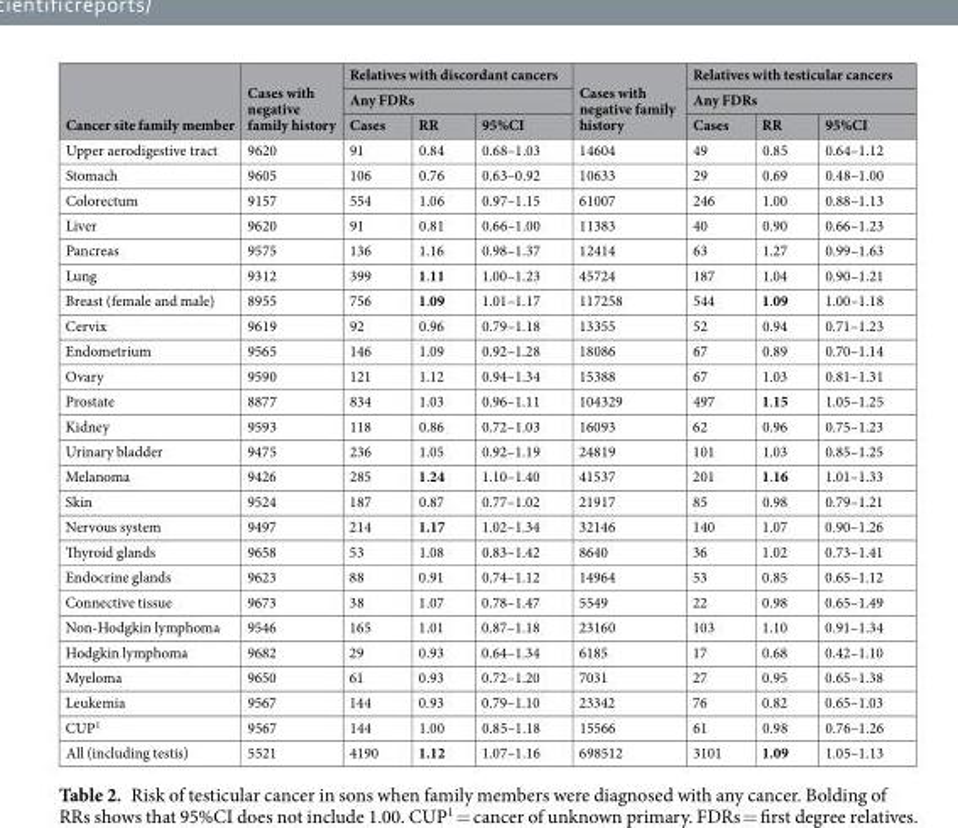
<table><thead><tr><td rowspan="3">Cancer site family member</td><td rowspan="3">Cases with negative family history</td><td rowspan="2" colspan="3">Relatives with discordant cancers Any FDRs</td><td rowspan="3">Cases with negative family history</td><td rowspan="2" colspan="3">Relatives with testicular cancers Any FDRs</td></tr><tr></tr><tr><td>Cases</td><td>RR</td><td>95%CI</td><td>Cases</td><td>RR</td><td>95%CI</td></tr></thead><tbody><tr><td>Upper aerodigestive tract</td><td>9620</td><td>91</td><td>0.84</td><td>0.68–1.03</td><td>14604</td><td>49</td><td>0.85</td><td>0.64–1.12</td></tr><tr><td>Stomach</td><td>9605</td><td>106</td><td>0.76</td><td>0.63–0.92</td><td>10633</td><td>29</td><td>0.69</td><td>0.48–1.00</td></tr><tr><td>Colorectum</td><td>9157</td><td>554</td><td>1.06</td><td>0.97–1.15</td><td>61007</td><td>246</td><td>1.00</td><td>0.88–1.13</td></tr><tr><td>Liver</td><td>9620</td><td>91</td><td>0.81</td><td>0.66–1.00</td><td>11383</td><td>40</td><td>0.90</td><td>0.66–1.23</td></tr><tr><td>Pancreas</td><td>9575</td><td>136</td><td>1.16</td><td>0.98–1.37</td><td>12414</td><td>63</td><td>1.27</td><td>0.99–1.63</td></tr><tr><td>Lung</td><td>9312</td><td>399</td><td>1.11</td><td>1.00–1.23</td><td>45724</td><td>187</td><td>1.04</td><td>0.90–1.21</td></tr><tr><td>Breast (female and male)</td><td>8955</td><td>756</td><td>1.09</td><td>1.01–1.17</td><td>117258</td><td>544</td><td>1.09</td><td>1.00–1.18</td></tr><tr><td>Cervix</td><td>9619</td><td>92</td><td>0.96</td><td>0.79–1.18</td><td>13355</td><td>52</td><td>0.94</td><td>0.71–1.23</td></tr><tr><td>Endometrium</td><td>9565</td><td>146</td><td>1.09</td><td>0.92–1.28</td><td>18086</td><td>67</td><td>0.89</td><td>0.70–1.14</td></tr><tr><td>Ovary</td><td>9590</td><td>121</td><td>1.12</td><td>0.94–1.34</td><td>15388</td><td>67</td><td>1.03</td><td>0.81–1.31</td></tr><tr><td>Prostate</td><td>8877</td><td>834</td><td>1.03</td><td>0.96–1.11</td><td>104329</td><td>497</td><td>1.15</td><td>1.05–1.25</td></tr><tr><td>Kidney</td><td>9593</td><td>118</td><td>0.86</td><td>0.72–1.03</td><td>16093</td><td>62</td><td>0.96</td><td>0.75–1.23</td></tr><tr><td>Urinary bladder</td><td>9475</td><td>236</td><td>1.05</td><td>0.92–1.19</td><td>24819</td><td>101</td><td>1.03</td><td>0.85–1.25</td></tr><tr><td>Melanoma</td><td>9426</td><td>285</td><td>1.24</td><td>1.10–1.40</td><td>41537</td><td>201</td><td>1.16</td><td>1.01–1.33</td></tr><tr><td>Skin</td><td>9524</td><td>187</td><td>0.87</td><td>0.77–1.02</td><td>21917</td><td>85</td><td>0.98</td><td>0.79–1.21</td></tr><tr><td>Nervous system</td><td>9497</td><td>214</td><td>1.17</td><td>1.02–1.34</td><td>32146</td><td>140</td><td>1.07</td><td>0.90–1.26</td></tr><tr><td>Thyroid glands</td><td>9658</td><td>53</td><td>1.08</td><td>0.83–1.42</td><td>8640</td><td>36</td><td>1.02</td><td>0.73–1.41</td></tr><tr><td>Endocrine glands</td><td>9623</td><td>88</td><td>0.91</td><td>0.74–1.12</td><td>14964</td><td>53</td><td>0.85</td><td>0.65–1.12</td></tr><tr><td>Connective tissue</td><td>9673</td><td>38</td><td>1.07</td><td>0.78–1.47</td><td>5549</td><td>22</td><td>0.98</td><td>0.65–1.49</td></tr><tr><td>Non-Hodgkin lymphoma</td><td>9546</td><td>165</td><td>1.01</td><td>0.87–1.18</td><td>23160</td><td>103</td><td>1.10</td><td>0.91–1.34</td></tr><tr><td>Hodgkin lymphoma</td><td>9682</td><td>29</td><td>0.93</td><td>0.64–1.34</td><td>6185</td><td>17</td><td>0.68</td><td>0.42–1.10</td></tr><tr><td>Myeloma</td><td>9650</td><td>61</td><td>0.93</td><td>0.72–1.20</td><td>7031</td><td>27</td><td>0.95</td><td>0.65–1.38</td></tr><tr><td>Leukemia</td><td>9567</td><td>144</td><td>0.93</td><td>0.79–1.10</td><td>23342</td><td>76</td><td>0.82</td><td>0.65–1.03</td></tr><tr><td>CUP<sup>1</sup></td><td>9567</td><td>144</td><td>1.00</td><td>0.85–1.18</td><td>15566</td><td>61</td><td>0.98</td><td>0.76–1.26</td></tr><tr><td>All (including testis)</td><td>5521</td><td>4190</td><td>1.12</td><td>1.07–1.16</td><td>698512</td><td>3101</td><td>1.09</td><td>1.05–1.13</td></tr></tbody></table>